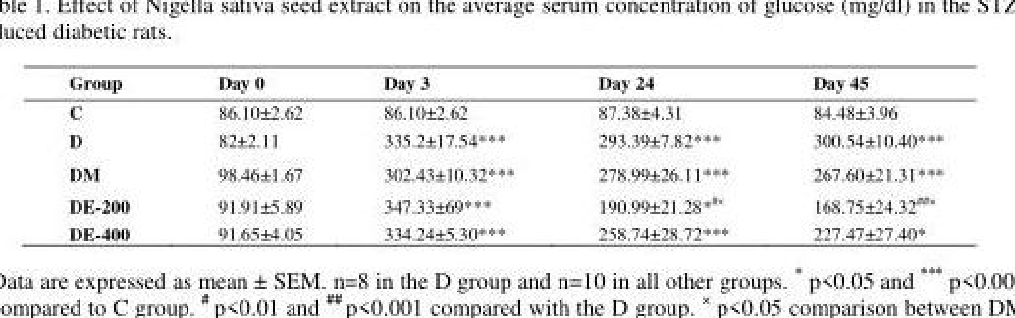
<table><thead><tr><td>Group</td><td>Day 0</td><td>Day 3</td><td>Day 24</td><td>Day 45</td></tr></thead><tbody><tr><td>C</td><td>86.10±2.62</td><td>86.10±2.62</td><td>87.38±4.31</td><td>84.48±3.96</td></tr><tr><td>D</td><td>82±2.11</td><td>335.2±17.54***</td><td>293.39±7.82***</td><td>300.54±10.40***</td></tr><tr><td>DM</td><td>98.46±1.67</td><td>302.43±10.32***</td><td>278.99±26.11***</td><td>267.60±21.31***</td></tr><tr><td>DE-200</td><td>91.91±5.89</td><td>347.33±69***</td><td>190.99±21.28*#×</td><td>168.75±24.32##×</td></tr><tr><td>DE-400</td><td>91.65±4.05</td><td>334.24±5.30***</td><td>258.74±28.72***</td><td>227.47±27.40*</td></tr></tbody></table>